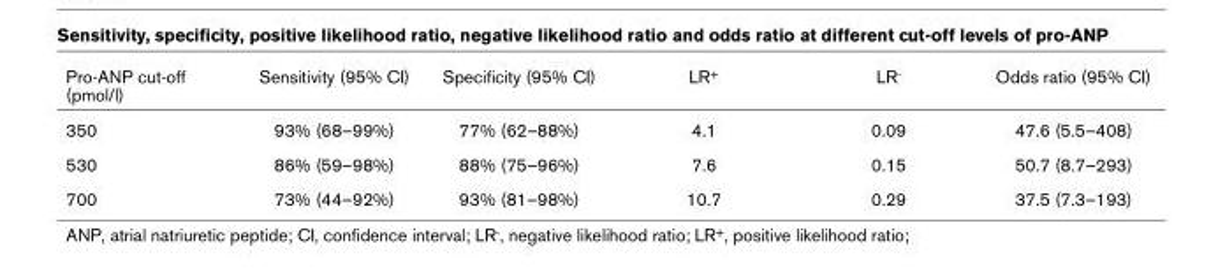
<table><thead><tr><td>Pro-ANP cut-off (pmol/l)</td><td>Sensitivity (95% CI)</td><td>Specificity (95% CI)</td><td>LR+</td><td>LR-</td><td>Odds ratio (95% CI)</td></tr></thead><tbody><tr><td>350</td><td>93% (68–99%)</td><td>77% (62–88%)</td><td>4.1</td><td>0.09</td><td>47.6 (5.5–408)</td></tr><tr><td>530</td><td>86% (59–98%)</td><td>88% (75–96%)</td><td>7.6</td><td>0.15</td><td>50.7 (8.7–293)</td></tr><tr><td>700</td><td>73% (44–92%)</td><td>93% (81–98%)</td><td>10.7</td><td>0.29</td><td>37.5 (7.3–193)</td></tr></tbody></table>